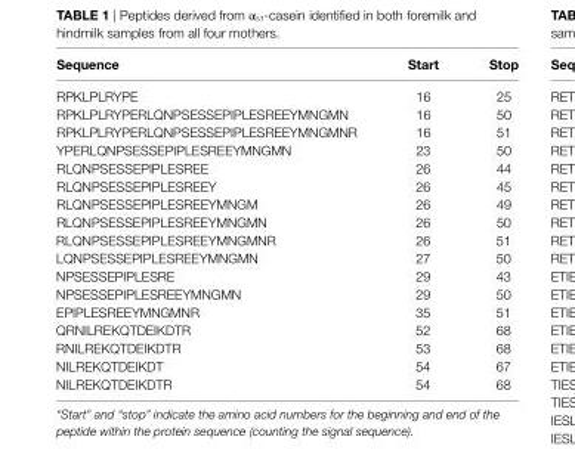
<table><thead><tr><td>sequence</td><td>start</td><td>stop</td></tr></thead><tbody><tr><td>RPKLPLRYPE</td><td>16</td><td>25</td></tr><tr><td>RPKLPLRYPERLQNPSESSEPIPLESREEYMNGMN</td><td>16</td><td>50</td></tr><tr><td>RPKLPLRYPERLQNPSESSEPIPLESREEYMNGMNR</td><td>16</td><td>51</td></tr><tr><td>YPERLQNPSESSEPIPLESREEYMNGMN</td><td>23</td><td>50</td></tr><tr><td>RLQNPSESSEPIPLESREE</td><td>26</td><td>44</td></tr><tr><td>RLQNPSESSEPIPLESREEY</td><td>26</td><td>45</td></tr><tr><td>RLQNPSESSEPIPLESREEYMNGM</td><td>26</td><td>49</td></tr><tr><td>RLQNPSESSEPIPLESREEYMNGMN</td><td>26</td><td>50</td></tr><tr><td>RLQNPSESSEPIPLESREEYMNGMNR</td><td>26</td><td>51</td></tr><tr><td>LQNPSESSEPIPLESREEYMNGMN</td><td>27</td><td>50</td></tr><tr><td>NPSESSEPIPLESRE</td><td>29</td><td>43</td></tr><tr><td>NPSESSEPIPLESREEYMNGMN</td><td>29</td><td>50</td></tr><tr><td>EPIPLESREEYMNGMNR</td><td>35</td><td>51</td></tr><tr><td>QRNILREKQTDEIKDTR</td><td>52</td><td>68</td></tr><tr><td>RNILREKQTDEIKDTR</td><td>53</td><td>68</td></tr><tr><td>NILREKQTDEIKDT</td><td>54</td><td>67</td></tr><tr><td>NILREKQTDEIKDTR</td><td>54</td><td>68</td></tr></tbody></table>